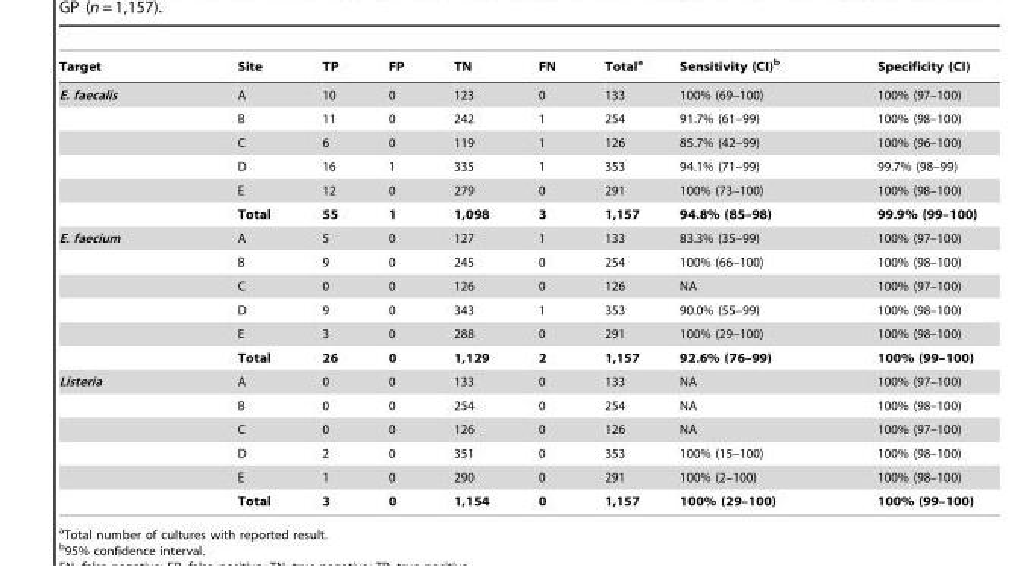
<table><thead><tr><td>Target</td><td>Site</td><td>TP</td><td>FP</td><td>TN</td><td>FN</td><td>Total<sup>a</sup></td><td>Sensitivity (CI)<sup>b</sup></td><td>Specificity (CI)</td></tr></thead><tbody><tr><td rowspan="6">E. faecalis</td><td>A</td><td>10</td><td>0</td><td>123</td><td>0</td><td>133</td><td>100% (69–100)</td><td>100% (97–100)</td></tr><tr><td>B</td><td>11</td><td>0</td><td>242</td><td>1</td><td>254</td><td>91.7% (61–99)</td><td>100% (98–100)</td></tr><tr><td>C</td><td>6</td><td>0</td><td>119</td><td>1</td><td>126</td><td>85.7% (42–99)</td><td>100% (96–100)</td></tr><tr><td>D</td><td>16</td><td>1</td><td>335</td><td>1</td><td>353</td><td>94.1% (71–99)</td><td>99.7% (98–99)</td></tr><tr><td>E</td><td>12</td><td>0</td><td>279</td><td>0</td><td>291</td><td>100% (73–100)</td><td>100% (98–100)</td></tr><tr><td>Total</td><td>55</td><td>1</td><td>1,098</td><td>3</td><td>1,157</td><td>94.8% (85–98)</td><td>99.9% (99–100)</td></tr><tr><td rowspan="6">E. faecium</td><td>A</td><td>5</td><td>0</td><td>127</td><td>1</td><td>133</td><td>83.3% (35–99)</td><td>100% (97–100)</td></tr><tr><td>B</td><td>9</td><td>0</td><td>245</td><td>0</td><td>254</td><td>100% (66–100)</td><td>100% (98–100)</td></tr><tr><td>C</td><td>0</td><td>0</td><td>126</td><td>0</td><td>126</td><td>NA</td><td>100% (97–100)</td></tr><tr><td>D</td><td>9</td><td>0</td><td>343</td><td>1</td><td>353</td><td>90.0% (55–99)</td><td>100% (98–100)</td></tr><tr><td>E</td><td>3</td><td>0</td><td>288</td><td>0</td><td>291</td><td>100% (29–100)</td><td>100% (98–100)</td></tr><tr><td>Total</td><td>26</td><td>0</td><td>1,129</td><td>2</td><td>1,157</td><td>92.6% (76–99)</td><td>100% (99–100)</td></tr><tr><td rowspan="6">Listeria</td><td>A</td><td>0</td><td>0</td><td>133</td><td>0</td><td>133</td><td>NA</td><td>100% (97–100)</td></tr><tr><td>B</td><td>0</td><td>0</td><td>254</td><td>0</td><td>254</td><td>NA</td><td>100% (98–100)</td></tr><tr><td>C</td><td>0</td><td>0</td><td>126</td><td>0</td><td>126</td><td>NA</td><td>100% (97–100)</td></tr><tr><td>D</td><td>2</td><td>0</td><td>351</td><td>0</td><td>353</td><td>100% (15–100)</td><td>100% (98–100)</td></tr><tr><td>E</td><td>1</td><td>0</td><td>290</td><td>0</td><td>291</td><td>100% (2–100)</td><td>100% (98–100)</td></tr><tr><td>Total</td><td>3</td><td>0</td><td>1,154</td><td>0</td><td>1,157</td><td>100% (29–100)</td><td>100% (99–100)</td></tr></tbody></table>